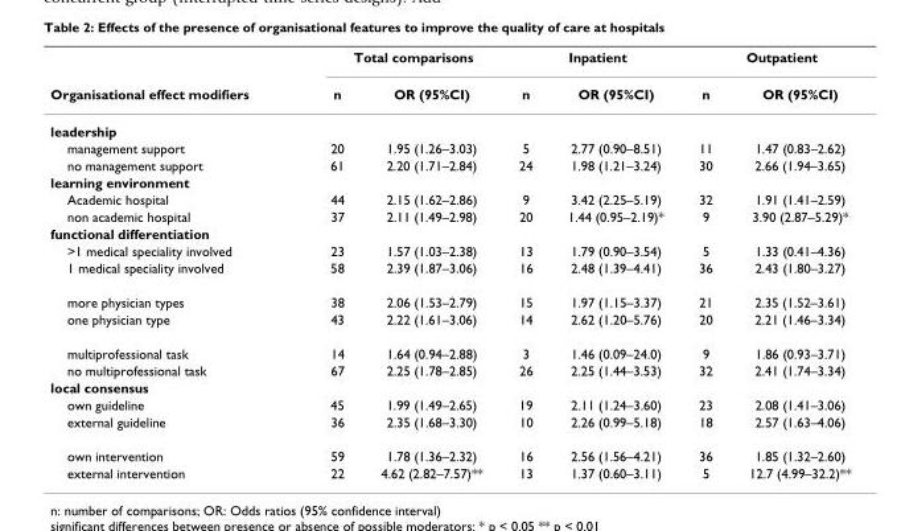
<table><thead><tr><td rowspan="2">Organisational effect modifiers</td><td colspan="2">Total comparisons</td><td colspan="2">Inpatient</td><td colspan="2">Outpatient</td></tr><tr><td>n</td><td>OR (95%CI)</td><td>n</td><td>OR (95%CI)</td><td>n</td><td>OR (95%CI)</td></tr></thead><tbody><tr><td colspan="7">leadership</td></tr><tr><td>management support</td><td>20</td><td>1.95 (1.26–3.03)</td><td>5</td><td>2.77 (0.90–8.51)</td><td>11</td><td>1.47 (0.83–2.62)</td></tr><tr><td>no management support</td><td>61</td><td>2.20 (1.71–2.84)</td><td>24</td><td>1.98 (1.21–3.24)</td><td>30</td><td>2.66 (1.94–3.65)</td></tr><tr><td colspan="7">learning environment</td></tr><tr><td>Academic hospital</td><td>44</td><td>2.15 (1.62–2.86)</td><td>9</td><td>3.42 (2.25–5.19)</td><td>32</td><td>1.91 (1.41–2.59)</td></tr><tr><td>non academic hospital</td><td>37</td><td>2.11 (1.49–2.98)</td><td>20</td><td>1.44 (0.95–2.19)*</td><td>9</td><td>3.90 (2.87–5.29)*</td></tr><tr><td colspan="7">functional differentiation</td></tr><tr><td>&gt;1 medical speciality involved</td><td>23</td><td>1.57 (1.03–2.38)</td><td>13</td><td>1.79 (0.90–3.54)</td><td>5</td><td>1.33 (0.41–4.36)</td></tr><tr><td>1 medical speciality involved</td><td>58</td><td>2.39 (1.87–3.06)</td><td>16</td><td>2.48 (1.39–4.41)</td><td>36</td><td>2.43 (1.80–3.27)</td></tr><tr><td>more physician types</td><td>38</td><td>2.06 (1.53–2.79)</td><td>15</td><td>1.97 (1.15–3.37)</td><td>21</td><td>2.35 (1.52–3.61)</td></tr><tr><td>one physician type</td><td>43</td><td>2.22 (1.61–3.06)</td><td>14</td><td>2.62 (1.20–5.76)</td><td>20</td><td>2.21 (1.46–3.34)</td></tr><tr><td>multiprofessional task</td><td>14</td><td>1.64 (0.94–2.88)</td><td>3</td><td>1.46 (0.09–24.0)</td><td>9</td><td>1.86 (0.93–3.71)</td></tr><tr><td>no multiprofessional task</td><td>67</td><td>2.25 (1.78–2.85)</td><td>26</td><td>2.25 (1.44–3.53)</td><td>32</td><td>2.41 (1.74–3.34)</td></tr><tr><td colspan="7">local consensus</td></tr><tr><td>own guideline</td><td>45</td><td>1.99 (1.49–2.65)</td><td>19</td><td>2.11 (1.24–3.60)</td><td>23</td><td>2.08 (1.41–3.06)</td></tr><tr><td>external guideline</td><td>36</td><td>2.35 (1.68–3.30)</td><td>10</td><td>2.26 (0.99–5.18)</td><td>18</td><td>2.57 (1.63–4.06)</td></tr><tr><td>own intervention</td><td>59</td><td>1.78 (1.36–2.32)</td><td>16</td><td>2.56 (1.56–4.21)</td><td>36</td><td>1.85 (1.32–2.60)</td></tr><tr><td>external intervention</td><td>22</td><td>4.62 (2.82–7.57)**</td><td>13</td><td>1.37 (0.60–3.11)</td><td>5</td><td>12.7 (4.99–32.2)**</td></tr></tbody></table>